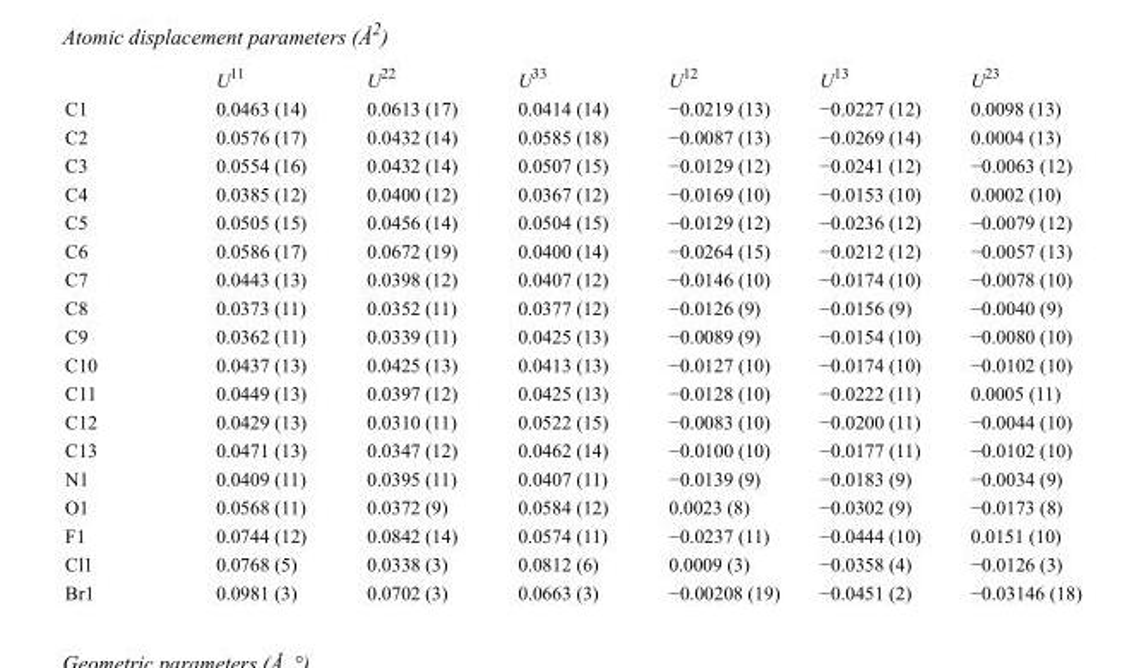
<table><thead><tr><td></td><td>U<sup>11</sup></td><td>U<sup>22</sup></td><td>U<sup>33</sup></td><td>U<sup>12</sup></td><td>U<sup>13</sup></td><td>U<sup>23</sup></td></tr></thead><tbody><tr><td>C1</td><td>0.0463 (14)</td><td>0.0613 (17)</td><td>0.0414 (14)</td><td>−0.0219 (13)</td><td>−0.0227 (12)</td><td>0.0098 (13)</td></tr><tr><td>C2</td><td>0.0576 (17)</td><td>0.0432 (14)</td><td>0.0585 (18)</td><td>−0.0087 (13)</td><td>−0.0269 (14)</td><td>0.0004 (13)</td></tr><tr><td>C3</td><td>0.0554 (16)</td><td>0.0432 (14)</td><td>0.0507 (15)</td><td>−0.0129 (12)</td><td>−0.0241 (12)</td><td>−0.0063 (12)</td></tr><tr><td>C4</td><td>0.0385 (12)</td><td>0.0400 (12)</td><td>0.0367 (12)</td><td>−0.0169 (10)</td><td>−0.0153 (10)</td><td>0.0002 (10)</td></tr><tr><td>C5</td><td>0.0505 (15)</td><td>0.0456 (14)</td><td>0.0504 (15)</td><td>−0.0129 (12)</td><td>−0.0236 (12)</td><td>−0.0079 (12)</td></tr><tr><td>C6</td><td>0.0586 (17)</td><td>0.0672 (19)</td><td>0.0400 (14)</td><td>−0.0264 (15)</td><td>−0.0212 (12)</td><td>−0.0057 (13)</td></tr><tr><td>C7</td><td>0.0443 (13)</td><td>0.0398 (12)</td><td>0.0407 (12)</td><td>−0.0146 (10)</td><td>−0.0174 (10)</td><td>−0.0078 (10)</td></tr><tr><td>C8</td><td>0.0373 (11)</td><td>0.0352 (11)</td><td>0.0377 (12)</td><td>−0.0126 (9)</td><td>−0.0156 (9)</td><td>−0.0040 (9)</td></tr><tr><td>C9</td><td>0.0362 (11)</td><td>0.0339 (11)</td><td>0.0425 (13)</td><td>−0.0089 (9)</td><td>−0.0154 (10)</td><td>−0.0080 (10)</td></tr><tr><td>C10</td><td>0.0437 (13)</td><td>0.0425 (13)</td><td>0.0413 (13)</td><td>−0.0127 (10)</td><td>−0.0174 (10)</td><td>−0.0102 (10)</td></tr><tr><td>C11</td><td>0.0449 (13)</td><td>0.0397 (12)</td><td>0.0425 (13)</td><td>−0.0128 (10)</td><td>−0.0222 (11)</td><td>0.0005 (11)</td></tr><tr><td>C12</td><td>0.0429 (13)</td><td>0.0310 (11)</td><td>0.0522 (15)</td><td>−0.0083 (10)</td><td>−0.0200 (11)</td><td>−0.0044 (10)</td></tr><tr><td>C13</td><td>0.0471 (13)</td><td>0.0347 (12)</td><td>0.0462 (14)</td><td>−0.0100 (10)</td><td>−0.0177 (11)</td><td>−0.0102 (10)</td></tr><tr><td>N1</td><td>0.0409 (11)</td><td>0.0395 (11)</td><td>0.0407 (11)</td><td>−0.0139 (9)</td><td>−0.0183 (9)</td><td>−0.0034 (9)</td></tr><tr><td>O1</td><td>0.0568 (11)</td><td>0.0372 (9)</td><td>0.0584 (12)</td><td>0.0023 (8)</td><td>−0.0302 (9)</td><td>−0.0173 (8)</td></tr><tr><td>F1</td><td>0.0744 (12)</td><td>0.0842 (14)</td><td>0.0574 (11)</td><td>−0.0237 (11)</td><td>−0.0444 (10)</td><td>0.0151 (10)</td></tr><tr><td>Cl1</td><td>0.0768 (5)</td><td>0.0338 (3)</td><td>0.0812 (6)</td><td>0.0009 (3)</td><td>−0.0358 (4)</td><td>−0.0126 (3)</td></tr><tr><td>Br1</td><td>0.0981 (3)</td><td>0.0702 (3)</td><td>0.0663 (3)</td><td>−0.00208 (19)</td><td>−0.0451 (2)</td><td>−0.03146 (18)</td></tr></tbody></table>